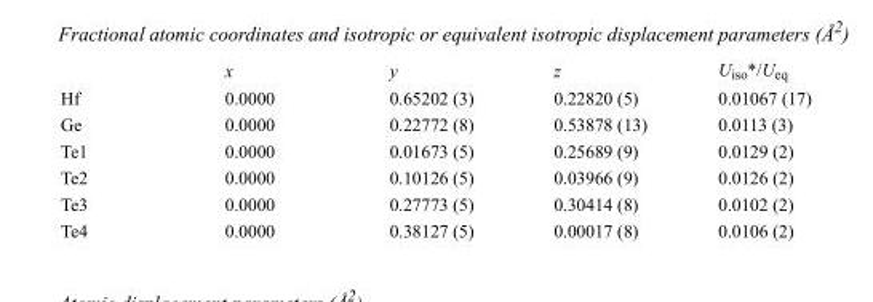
<table><thead><tr><td></td><td>x</td><td>y</td><td>z</td><td>U<sub>iso</sub>*/U<sub>eq</sub></td></tr></thead><tbody><tr><td>Hf</td><td>0.0000</td><td>0.65202 (3)</td><td>0.22820 (5)</td><td>0.01067 (17)</td></tr><tr><td>Ge</td><td>0.0000</td><td>0.22772 (8)</td><td>0.53878 (13)</td><td>0.0113 (3)</td></tr><tr><td>Te1</td><td>0.0000</td><td>0.01673 (5)</td><td>0.25689 (9)</td><td>0.0129 (2)</td></tr><tr><td>Te2</td><td>0.0000</td><td>0.10126 (5)</td><td>0.03966 (9)</td><td>0.0126 (2)</td></tr><tr><td>Te3</td><td>0.0000</td><td>0.27773 (5)</td><td>0.30414 (8)</td><td>0.0102 (2)</td></tr><tr><td>Te4</td><td>0.0000</td><td>0.38127 (5)</td><td>0.00017 (8)</td><td>0.0106 (2)</td></tr></tbody></table>